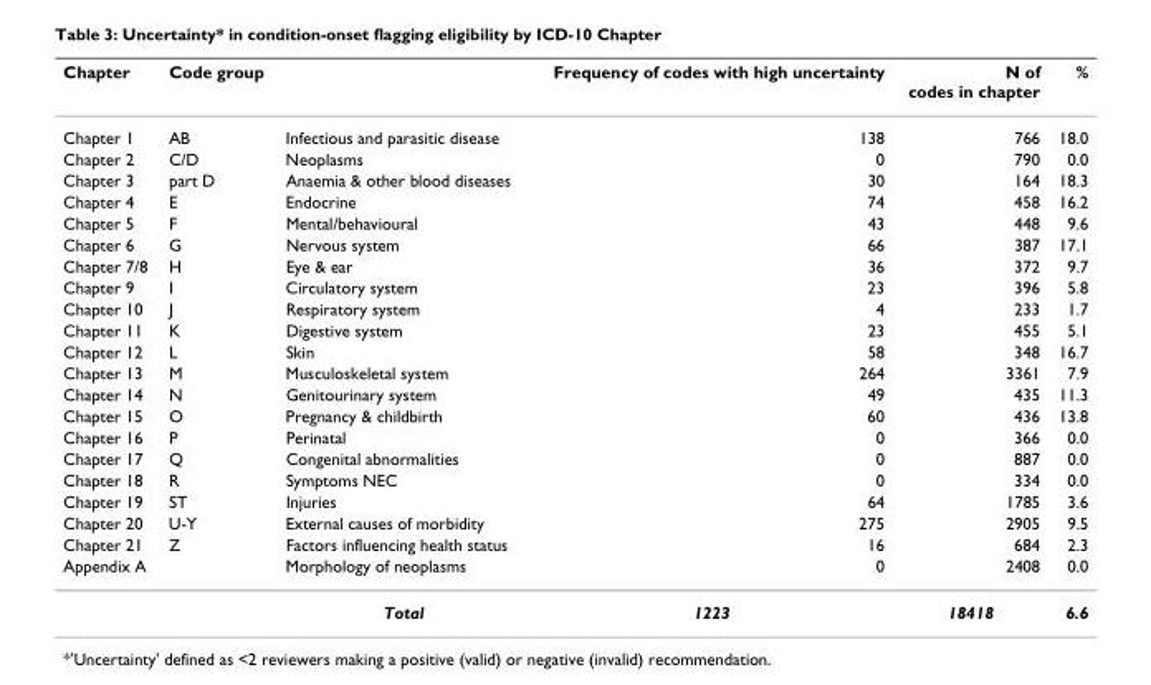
<table><thead><tr><td>Chapter</td><td>Code group</td><td></td><td>Frequency of codes with high uncertainty</td><td>N of codes in chapter</td><td>%</td></tr></thead><tbody><tr><td>Chapter 1</td><td>AB</td><td>Infectious and parasitic disease</td><td>138</td><td>766</td><td>18.0</td></tr><tr><td>Chapter 2</td><td>C/D</td><td>Neoplasms</td><td>0</td><td>790</td><td>0.0</td></tr><tr><td>Chapter 3</td><td>part D</td><td>Anaemia &amp; other blood diseases</td><td>30</td><td>164</td><td>18.3</td></tr><tr><td>Chapter 4</td><td>E</td><td>Endocrine</td><td>74</td><td>458</td><td>16.2</td></tr><tr><td>Chapter 5</td><td>F</td><td>Mental/behavioural</td><td>43</td><td>448</td><td>9.6</td></tr><tr><td>Chapter 6</td><td>G</td><td>Nervous system</td><td>66</td><td>387</td><td>17.1</td></tr><tr><td>Chapter 7/8</td><td>H</td><td>Eye &amp; ear</td><td>36</td><td>372</td><td>9.7</td></tr><tr><td>Chapter 9</td><td>I</td><td>Circulatory system</td><td>23</td><td>396</td><td>5.8</td></tr><tr><td>Chapter 10</td><td>J</td><td>Respiratory system</td><td>4</td><td>233</td><td>1.7</td></tr><tr><td>Chapter 11</td><td>K</td><td>Digestive system</td><td>23</td><td>455</td><td>5.1</td></tr><tr><td>Chapter 12</td><td>L</td><td>Skin</td><td>58</td><td>348</td><td>16.7</td></tr><tr><td>Chapter 13</td><td>M</td><td>Musculoskeletal system</td><td>264</td><td>3361</td><td>7.9</td></tr><tr><td>Chapter 14</td><td>N</td><td>Genitourinary system</td><td>49</td><td>435</td><td>11.3</td></tr><tr><td>Chapter 15</td><td>O</td><td>Pregnancy &amp; childbirth</td><td>60</td><td>436</td><td>13.8</td></tr><tr><td>Chapter 16</td><td>P</td><td>Perinatal</td><td>0</td><td>366</td><td>0.0</td></tr><tr><td>Chapter 17</td><td>Q</td><td>Congenital abnormalities</td><td>0</td><td>887</td><td>0.0</td></tr><tr><td>Chapter 18</td><td>R</td><td>Symptoms NEC</td><td>0</td><td>334</td><td>0.0</td></tr><tr><td>Chapter 19</td><td>ST</td><td>Injuries</td><td>64</td><td>1785</td><td>3.6</td></tr><tr><td>Chapter 20</td><td>U-Y</td><td>External causes of morbidity</td><td>275</td><td>2905</td><td>9.5</td></tr><tr><td>Chapter 21</td><td>Z</td><td>Factors influencing health status</td><td>16</td><td>684</td><td>2.3</td></tr><tr><td rowspan="2">Appendix A</td><td></td><td>Morphology of neoplasms</td><td>0</td><td>2408</td><td>0.0</td></tr><tr><td></td><td>Total</td><td>1223</td><td>18418</td><td>6.6</td></tr></tbody></table>